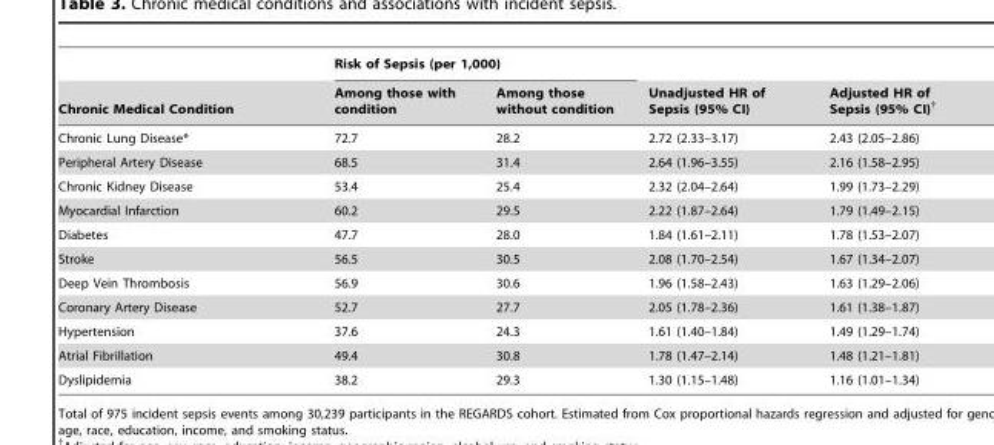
<table><thead><tr><td rowspan="2">Chronic Medical Condition</td><td colspan="2">Risk of Sepsis (per 1,000)</td><td rowspan="2">Unadjusted HR of Sepsis (95% CI)</td><td rowspan="2">Adjusted HR of Sepsis (95% CI)†</td></tr><tr><td>Among those with condition</td><td>Among those without condition</td></tr></thead><tbody><tr><td>Chronic Lung Disease*</td><td>72.7</td><td>28.2</td><td>2.72 (2.33–3.17)</td><td>2.43 (2.05–2.86)</td></tr><tr><td>Peripheral Artery Disease</td><td>68.5</td><td>31.4</td><td>2.64 (1.96–3.55)</td><td>2.16 (1.58–2.95)</td></tr><tr><td>Chronic Kidney Disease</td><td>53.4</td><td>25.4</td><td>2.32 (2.04–2.64)</td><td>1.99 (1.73–2.29)</td></tr><tr><td>Myocardial Infarction</td><td>60.2</td><td>29.5</td><td>2.22 (1.87–2.64)</td><td>1.79 (1.49–2.15)</td></tr><tr><td>Diabetes</td><td>47.7</td><td>28.0</td><td>1.84 (1.61–2.11)</td><td>1.78 (1.53–2.07)</td></tr><tr><td>Stroke</td><td>56.5</td><td>30.5</td><td>2.08 (1.70–2.54)</td><td>1.67 (1.34–2.07)</td></tr><tr><td>Deep Vein Thrombosis</td><td>56.9</td><td>30.6</td><td>1.96 (1.58–2.43)</td><td>1.63 (1.29–2.06)</td></tr><tr><td>Coronary Artery Disease</td><td>52.7</td><td>27.7</td><td>2.05 (1.78–2.36)</td><td>1.61 (1.38–1.87)</td></tr><tr><td>Hypertension</td><td>37.6</td><td>24.3</td><td>1.61 (1.40–1.84)</td><td>1.49 (1.29–1.74)</td></tr><tr><td>Atrial Fibrillation</td><td>49.4</td><td>30.8</td><td>1.78 (1.47–2.14)</td><td>1.48 (1.21–1.81)</td></tr><tr><td>Dyslipidemia</td><td>38.2</td><td>29.3</td><td>1.30 (1.15–1.48)</td><td>1.16 (1.01–1.34)</td></tr></tbody></table>